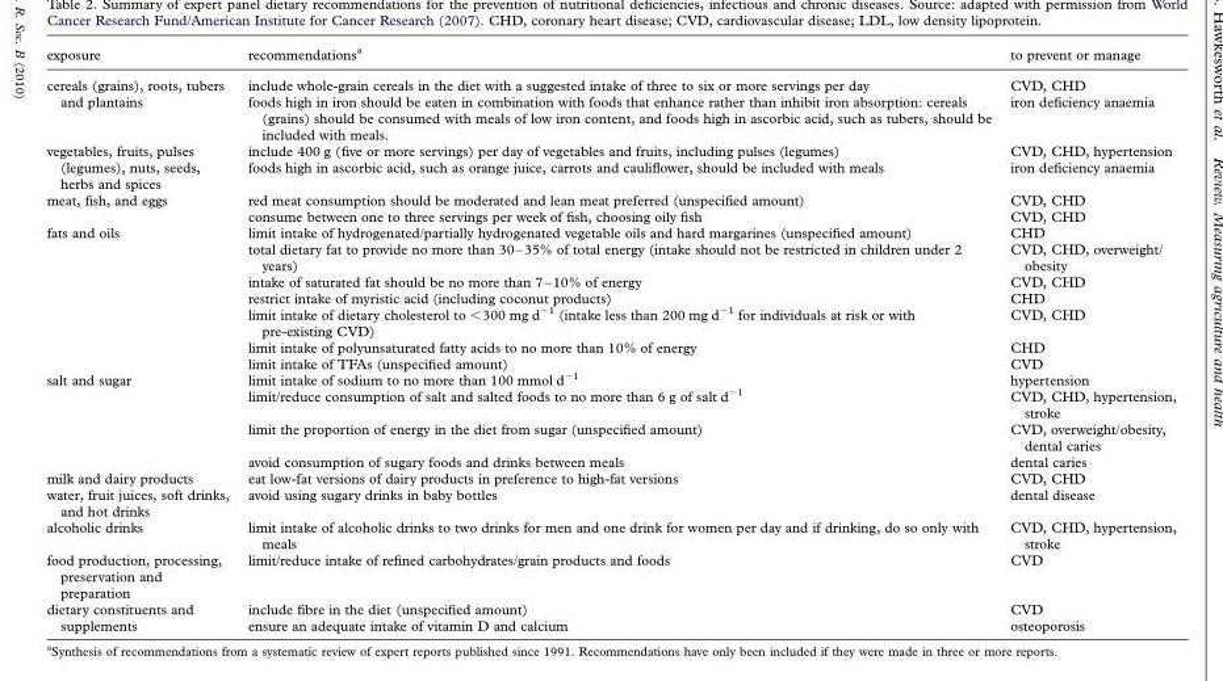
<table><thead><tr><td>exposure</td><td>recommendations<sup>a</sup></td><td>to prevent or manage</td></tr></thead><tbody><tr><td rowspan="2">cereals (grains), roots, tubers and plantains</td><td>include whole-grain cereals in the diet with a suggested intake of three to six or more servings per day</td><td>CVD, CHD</td></tr><tr><td>foods high in iron should be eaten in combination with foods that enhance rather than inhibit iron absorption: cereals (grains) should be consumed with meals of low iron content, and foods high in ascorbic acid, such as tubers, should be included with meals.</td><td>iron deficiency anaemia</td></tr><tr><td rowspan="2">vegetables, fruits, pulses (legumes), nuts, seeds, herbs and spices</td><td>include 400 g (five or more servings) per day of vegetables and fruits, including pulses (legumes)</td><td>CVD, CHD, hypertension</td></tr><tr><td>foods high in ascorbic acid, such as orange juice, carrots and cauliflower, should be included with meals</td><td>iron deficiency anaemia</td></tr><tr><td rowspan="2">meat, fish, and eggs</td><td>red meat consumption should be moderated and lean meat preferred (unspecified amount)</td><td>CVD, CHD</td></tr><tr><td>consume between one to three servings per week of fish, choosing oily fish</td><td>CVD, CHD</td></tr><tr><td rowspan="7">fats and oils</td><td>limit intake of hydrogenated/partially hydrogenated vegetable oils and hard margarines (unspecified amount)</td><td>CHD</td></tr><tr><td>total dietary fat to provide no more than 30–35% of total energy (intake should not be restricted in children under 2 years)</td><td>CVD, CHD, overweight/ obesity</td></tr><tr><td>intake of saturated fat should be no more than 7–10% of energy</td><td>CVD, CHD</td></tr><tr><td>restrict intake of myristic acid (including coconut products)</td><td>CHD</td></tr><tr><td>limit intake of dietary cholesterol to &lt;300 mg d<sup>−1</sup> (intake less than 200 mg d<sup>−1</sup> for individuals at risk or with pre-existing CVD)</td><td>CVD, CHD</td></tr><tr><td>limit intake of polyunsaturated fatty acids to no more than 10% of energy</td><td>CHD</td></tr><tr><td>limit intake of TFAs (unspecified amount)</td><td>CVD</td></tr><tr><td rowspan="4">salt and sugar</td><td>limit intake of sodium to no more than 100 mmol d<sup>−1</sup></td><td>hypertension</td></tr><tr><td>limit/reduce consumption of salt and salted foods to no more than 6 g of salt d<sup>−1</sup></td><td>CVD, CHD, hypertension, stroke</td></tr><tr><td>limit the proportion of energy in the diet from sugar (unspecified amount)</td><td>CVD, overweight/obesity, dental caries</td></tr><tr><td>avoid consumption of sugary foods and drinks between meals</td><td>dental caries</td></tr><tr><td>milk and dairy products</td><td>eat low-fat versions of dairy products in preference to high-fat versions</td><td>CVD, CHD</td></tr><tr><td>water, fruit juices, soft drinks, and hot drinks</td><td>avoid using sugary drinks in baby bottles</td><td>dental disease</td></tr><tr><td>alcoholic drinks</td><td>limit intake of alcoholic drinks to two drinks for men and one drink for women per day and if drinking, do so only with meals</td><td>CVD, CHD, hypertension, stroke</td></tr><tr><td>food production, processing, preservation and preparation</td><td>limit/reduce intake of refined carbohydrates/grain products and foods</td><td>CVD</td></tr><tr><td rowspan="2">dietary constituents and supplements</td><td>include fibre in the diet (unspecified amount)</td><td>CVD</td></tr><tr><td>ensure an adequate intake of vitamin D and calcium</td><td>osteoporosis</td></tr></tbody></table>